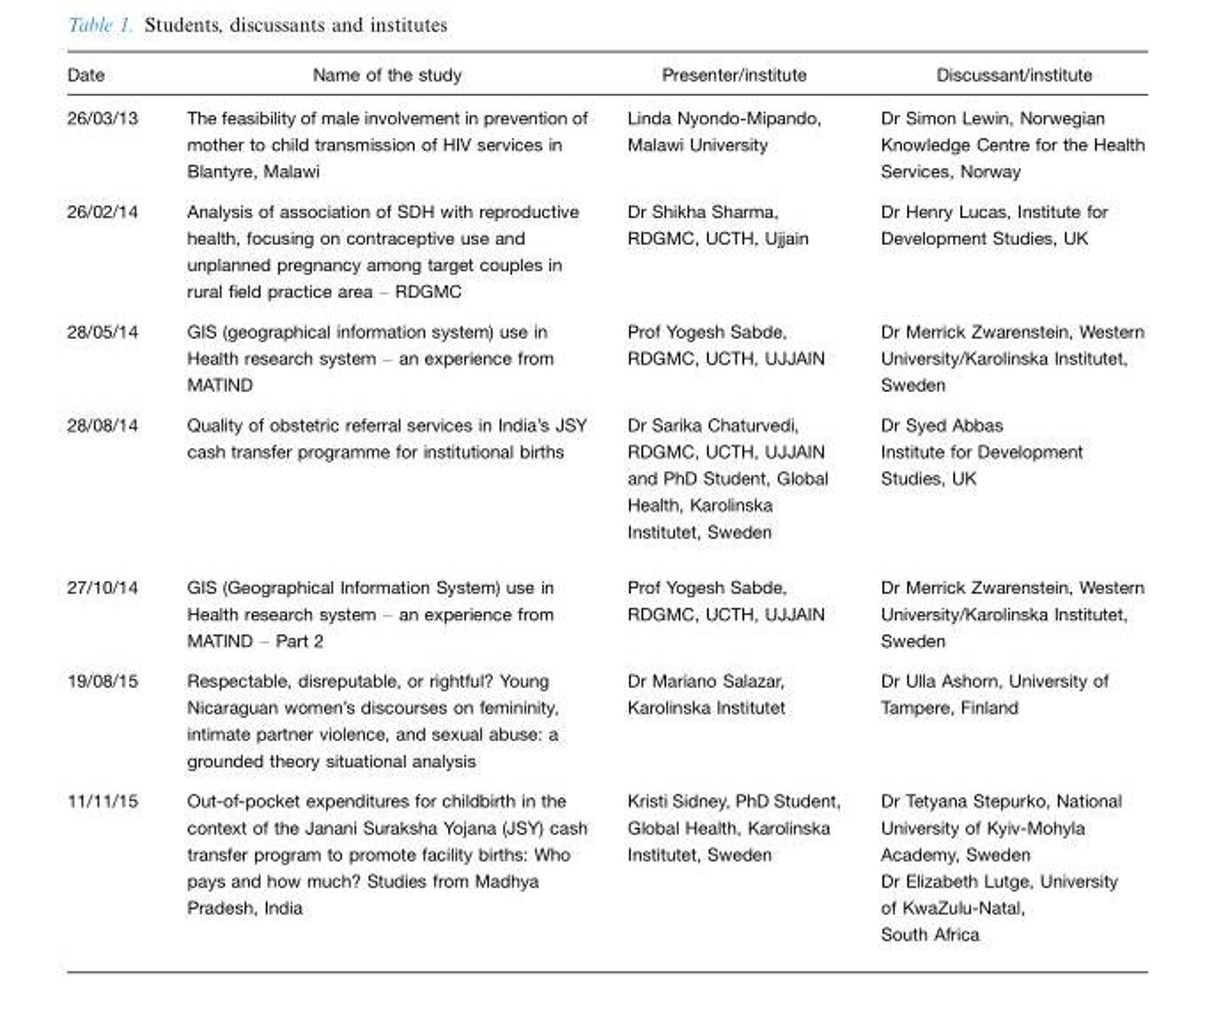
<table><thead><tr><td>Date</td><td>Name of the study</td><td>Presenter/institute</td><td>Discussant/institute</td></tr></thead><tbody><tr><td>26/03/13</td><td>The feasibility of male involvement in prevention of mother to child transmission of HIV services in Blantyre, Malawi</td><td>Linda Nyondo-Mipando, Malawi University</td><td>Dr Simon Lewin, Norwegian Knowledge Centre for the Health Services, Norway</td></tr><tr><td>26/02/14</td><td>Analysis of association of SDH with reproductive health, focusing on contraceptive use and unplanned pregnancy among target couples in rural field practice area – RDGMC</td><td>Dr Shikha Sharma, RDGMC, UCTH, Ujjain</td><td>Dr Henry Lucas, Institute for Development Studies, UK</td></tr><tr><td>28/05/14</td><td>GIS (geographical information system) use in Health research system – an experience from MATIND</td><td>Prof Yogesh Sabde, RDGMC, UCTH, UJJAIN</td><td>Dr Merrick Zwarenstein, Western University/Karolinska Institutet, Sweden</td></tr><tr><td>28/08/14</td><td>Quality of obstetric referral services in India’s JSY cash transfer programme for institutional births</td><td>Dr Sarika Chaturvedi, RDGMC, UCTH, UJJAIN and PhD Student, Global Health, Karolinska Institutet, Sweden</td><td>Dr Syed Abbas Institute for Development Studies, UK</td></tr><tr><td>27/10/14</td><td>GIS (Geographical Information System) use in Health research system – an experience from MATIND – Part 2</td><td>Prof Yogesh Sabde, RDGMC, UCTH, UJJAIN</td><td>Dr Merrick Zwarenstein, Western University/Karolinska Institutet, Sweden</td></tr><tr><td>19/08/15</td><td>Respectable, disreputable, or rightful? Young Nicaraguan women’s discourses on femininity, intimate partner violence, and sexual abuse: a grounded theory situational analysis</td><td>Dr Mariano Salazar, Karolinska Institutet</td><td>Dr Ulla Ashorn, University of Tampere, Finland</td></tr><tr><td>11/11/15</td><td>Out-of-pocket expenditures for childbirth in the context of the Janani Suraksha Yojana (JSY) cash transfer program to promote facility births: Who pays and how much? Studies from Madhya Pradesh, India</td><td>Kristi Sidney, PhD Student, Global Health, Karolinska Institutet, Sweden</td><td>Dr Tetyana Stepurko, National University of Kyiv-Mohyla Academy, Sweden Dr Elizabeth Lutge, University of KwaZulu-Natal, South Africa</td></tr></tbody></table>